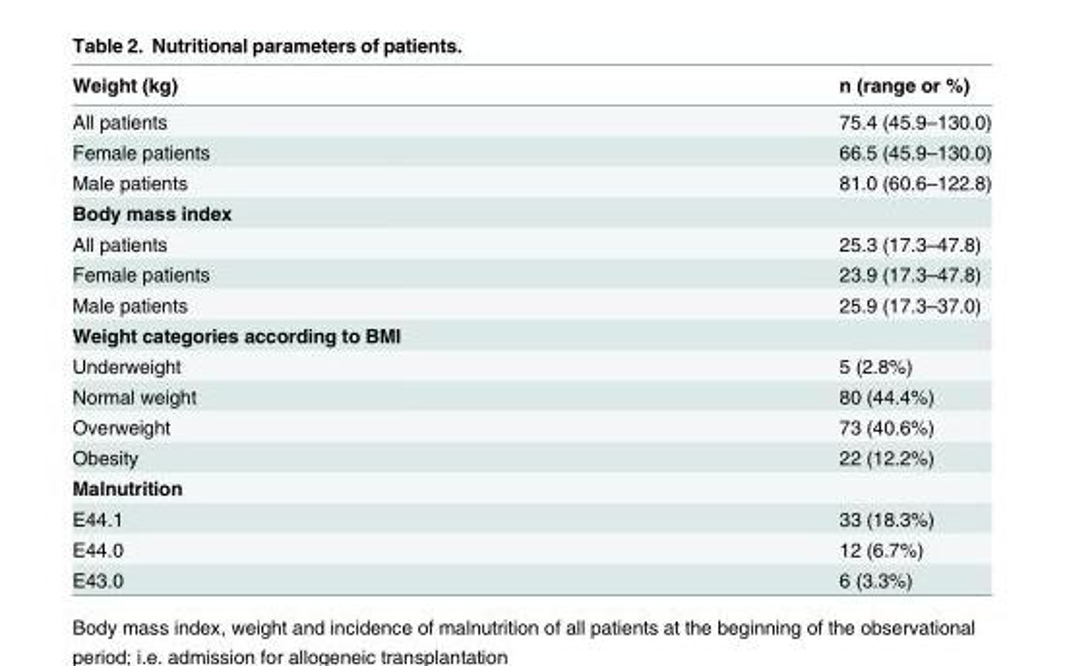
<table><thead><tr><td>Weight (kg)</td><td>n (range or %)</td></tr></thead><tbody><tr><td>All patients</td><td>75.4 (45.9–130.0)</td></tr><tr><td>Female patients</td><td>66.5 (45.9–130.0)</td></tr><tr><td>Male patients</td><td>81.0 (60.6–122.8)</td></tr><tr><td colspan="2">Body mass index</td></tr><tr><td>All patients</td><td>25.3 (17.3–47.8)</td></tr><tr><td>Female patients</td><td>23.9 (17.3–47.8)</td></tr><tr><td>Male patients</td><td>25.9 (17.3–37.0)</td></tr><tr><td colspan="2">Weight categories according to BMI</td></tr><tr><td>Underweight</td><td>5 (2.8%)</td></tr><tr><td>Normal weight</td><td>80 (44.4%)</td></tr><tr><td>Overweight</td><td>73 (40.6%)</td></tr><tr><td>Obesity</td><td>22 (12.2%)</td></tr><tr><td colspan="2">Malnutrition</td></tr><tr><td>E44.1</td><td>33 (18.3%)</td></tr><tr><td>E44.0</td><td>12 (6.7%)</td></tr><tr><td>E43.0</td><td>6 (3.3%)</td></tr></tbody></table>